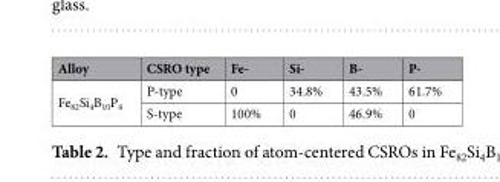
<table><thead><tr><td>Alloy</td><td>CSRO type</td><td>Fe-</td><td>Si-</td><td>B-</td><td>P-</td></tr></thead><tbody><tr><td rowspan="2">Fe<sub>82</sub>Si<sub>4</sub>B<sub>10</sub>P<sub>4</sub></td><td>P-type</td><td>0</td><td>34.8%</td><td>43.5%</td><td>61.7%</td></tr><tr><td>S-type</td><td>100%</td><td>0</td><td>46.9%</td><td>0</td></tr></tbody></table>